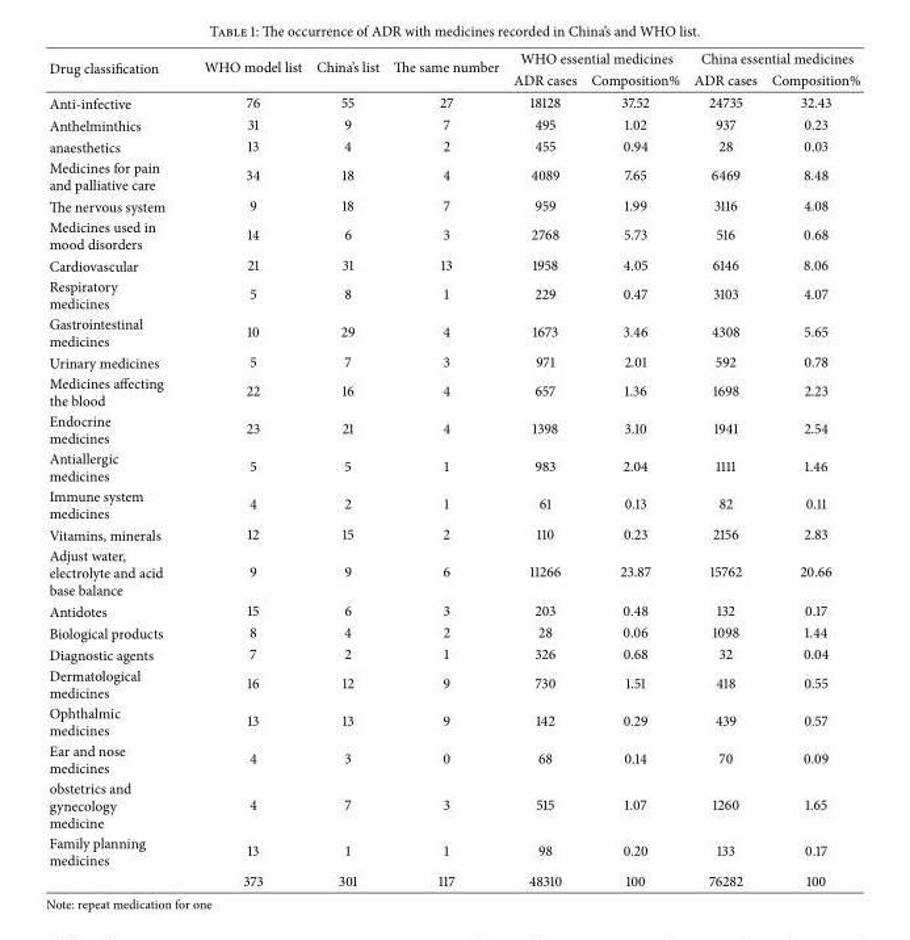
<table><thead><tr><td rowspan="2">Drug classification</td><td rowspan="2">WHO model list</td><td rowspan="2">China’s list</td><td rowspan="2">The same number</td><td colspan="2">WHO essential medicines</td><td colspan="2">China essential medicines</td></tr><tr><td>ADR cases</td><td>Composition%</td><td>ADR cases</td><td>Composition%</td></tr></thead><tbody><tr><td>Anti-infective</td><td>76</td><td>55</td><td>27</td><td>18128</td><td>37.52</td><td>24735</td><td>32.43</td></tr><tr><td>Anthelminthics</td><td>31</td><td>9</td><td>7</td><td>495</td><td>1.02</td><td>937</td><td>0.23</td></tr><tr><td>anaesthetics</td><td>13</td><td>4</td><td>2</td><td>455</td><td>0.94</td><td>28</td><td>0.03</td></tr><tr><td>Medicines for pain and palliative care</td><td>34</td><td>18</td><td>4</td><td>4089</td><td>7.65</td><td>6469</td><td>8.48</td></tr><tr><td>The nervous system</td><td>9</td><td>18</td><td>7</td><td>959</td><td>1.99</td><td>3116</td><td>4.08</td></tr><tr><td>Medicines used in mood disorders</td><td>14</td><td>6</td><td>3</td><td>2768</td><td>5.73</td><td>516</td><td>0.68</td></tr><tr><td>Cardiovascular</td><td>21</td><td>31</td><td>13</td><td>1958</td><td>4.05</td><td>6146</td><td>8.06</td></tr><tr><td>Respiratory medicines</td><td>5</td><td>8</td><td>1</td><td>229</td><td>0.47</td><td>3103</td><td>4.07</td></tr><tr><td>Gastrointestinal medicines</td><td>10</td><td>29</td><td>4</td><td>1673</td><td>3.46</td><td>4308</td><td>5.65</td></tr><tr><td>Urinary medicines</td><td>5</td><td>7</td><td>3</td><td>971</td><td>2.01</td><td>592</td><td>0.78</td></tr><tr><td>Medicines affecting the blood</td><td>22</td><td>16</td><td>4</td><td>657</td><td>1.36</td><td>1698</td><td>2.23</td></tr><tr><td>Endocrine medicines</td><td>23</td><td>21</td><td>4</td><td>1398</td><td>3.10</td><td>1941</td><td>2.54</td></tr><tr><td>Antiallergic medicines</td><td>5</td><td>5</td><td>1</td><td>983</td><td>2.04</td><td>1111</td><td>1.46</td></tr><tr><td>Immune system medicines</td><td>4</td><td>2</td><td>1</td><td>61</td><td>0.13</td><td>82</td><td>0.11</td></tr><tr><td>Vitamins, minerals</td><td>12</td><td>15</td><td>2</td><td>110</td><td>0.23</td><td>2156</td><td>2.83</td></tr><tr><td>Adjust water, electrolyte and acid base balance</td><td>9</td><td>9</td><td>6</td><td>11266</td><td>23.87</td><td>15762</td><td>20.66</td></tr><tr><td>Antidotes</td><td>15</td><td>6</td><td>3</td><td>203</td><td>0.48</td><td>132</td><td>0.17</td></tr><tr><td>Biological products</td><td>8</td><td>4</td><td>2</td><td>28</td><td>0.06</td><td>1098</td><td>1.44</td></tr><tr><td>Diagnostic agents</td><td>7</td><td>2</td><td>1</td><td>326</td><td>0.68</td><td>32</td><td>0.04</td></tr><tr><td>Dermatological medicines</td><td>16</td><td>12</td><td>9</td><td>730</td><td>1.51</td><td>418</td><td>0.55</td></tr><tr><td>Ophthalmic medicines</td><td>13</td><td>13</td><td>9</td><td>142</td><td>0.29</td><td>439</td><td>0.57</td></tr><tr><td>Ear and nose medicines</td><td>4</td><td>3</td><td>0</td><td>68</td><td>0.14</td><td>70</td><td>0.09</td></tr><tr><td>obstetrics and gynecology medicine</td><td>4</td><td>7</td><td>3</td><td>515</td><td>1.07</td><td>1260</td><td>1.65</td></tr><tr><td rowspan="2">Family planning medicines</td><td>13</td><td>1</td><td>1</td><td>98</td><td>0.20</td><td>133</td><td>0.17</td></tr><tr><td>373</td><td>301</td><td>117</td><td>48310</td><td>100</td><td>76282</td><td>100</td></tr></tbody></table>